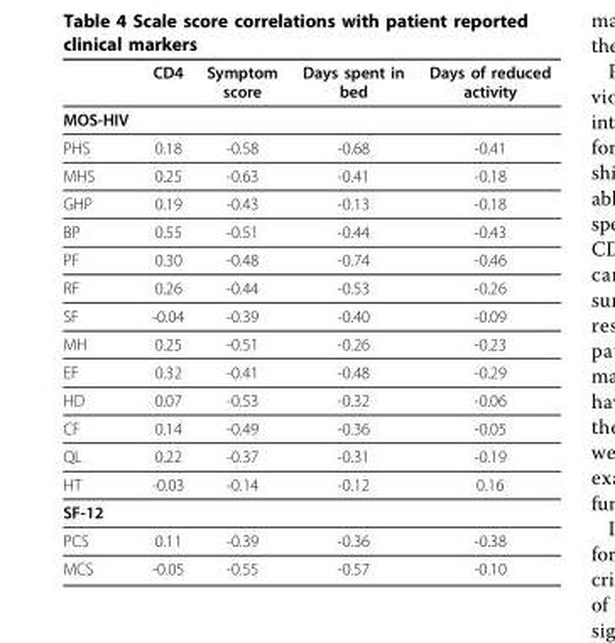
<table><thead><tr><td></td><td>CD4</td><td>Symptom score</td><td>Days spent in bed</td><td>Days of reduced activity</td></tr></thead><tbody><tr><td colspan="5">MOS-HIV</td></tr><tr><td>PHS</td><td>0.18</td><td>-0.58</td><td>-0.68</td><td>-0.41</td></tr><tr><td>MHS</td><td>0.25</td><td>-0.63</td><td>-0.41</td><td>-0.18</td></tr><tr><td>GHP</td><td>0.19</td><td>-0.43</td><td>-0.13</td><td>-0.18</td></tr><tr><td>BP</td><td>0.55</td><td>-0.51</td><td>-0.44</td><td>-0.43</td></tr><tr><td>PF</td><td>0.30</td><td>-0.48</td><td>-0.74</td><td>-0.46</td></tr><tr><td>RF</td><td>0.26</td><td>-0.44</td><td>-0.53</td><td>-0.26</td></tr><tr><td>SF</td><td>-0.04</td><td>-0.39</td><td>-0.40</td><td>-0.09</td></tr><tr><td>MH</td><td>0.25</td><td>-0.51</td><td>-0.26</td><td>-0.23</td></tr><tr><td>EF</td><td>0.32</td><td>-0.41</td><td>-0.48</td><td>-0.29</td></tr><tr><td>HD</td><td>0.07</td><td>-0.53</td><td>-0.32</td><td>-0.06</td></tr><tr><td>CF</td><td>0.14</td><td>-0.49</td><td>-0.36</td><td>-0.05</td></tr><tr><td>QL</td><td>0.22</td><td>-0.37</td><td>-0.31</td><td>-0.19</td></tr><tr><td>HT</td><td>-0.03</td><td>-0.14</td><td>-0.12</td><td>0.16</td></tr><tr><td colspan="5">SF-12</td></tr><tr><td>PCS</td><td>0.11</td><td>-0.39</td><td>-0.36</td><td>-0.38</td></tr><tr><td>MCS</td><td>-0.05</td><td>-0.55</td><td>-0.57</td><td>-0.10</td></tr></tbody></table>